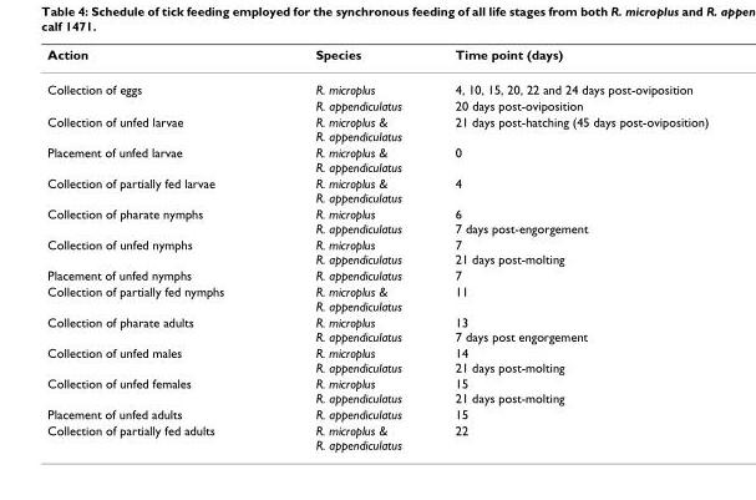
<table><thead><tr><td>Action</td><td>Species</td><td>Time point (days)</td></tr></thead><tbody><tr><td rowspan="2">Collection of eggs</td><td>R. microplus</td><td>4, 10, 15, 20, 22 and 24 days post-oviposition</td></tr><tr><td>R. appendiculatus</td><td>20 days post-oviposition</td></tr><tr><td>Collection of unfed larvae</td><td>R. microplus &amp; R. appendiculatus</td><td>21 days post-hatching (45 days post-oviposition)</td></tr><tr><td>Placement of unfed larvae</td><td>R. microplus &amp; R. appendiculatus</td><td>0</td></tr><tr><td>Collection of partially fed larvae</td><td>R. microplus &amp; R. appendiculatus</td><td>4</td></tr><tr><td>Collection of pharate nymphs</td><td>R. microplus R. appendiculatus</td><td>6 7 days post-engorgement</td></tr><tr><td>Collection of unfed nymphs</td><td>R. microplus R. appendiculatus</td><td>7 21 days post-molting</td></tr><tr><td>Placement of unfed nymphs</td><td>R. appendiculatus</td><td>7</td></tr><tr><td>Collection of partially fed nymphs</td><td>R. microplus &amp; R. appendiculatus</td><td>11</td></tr><tr><td>Collection of pharate adults</td><td>R. microplus R. appendiculatus</td><td>13 7 days post engorgement</td></tr><tr><td>Collection of unfed males</td><td>R. microplus R. appendiculatus</td><td>14 21 days post-molting</td></tr><tr><td>Collection of unfed females</td><td>R. microplus R. appendiculatus</td><td>15 21 days post-molting</td></tr><tr><td>Placement of unfed adults</td><td>R. appendiculatus</td><td>15</td></tr><tr><td>Collection of partially fed adults</td><td>R. microplus &amp; R. appendiculatus</td><td>22</td></tr></tbody></table>